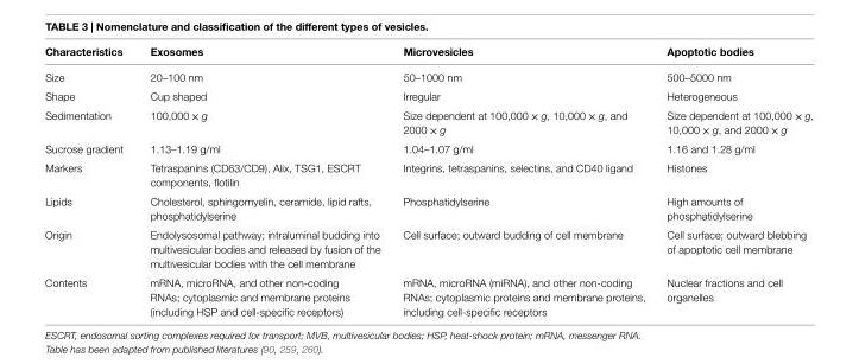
<table><thead><tr><td>Characteristics</td><td>exosomes</td><td>Microvesicles</td><td>Apoptotic bodies</td></tr></thead><tbody><tr><td>Size</td><td>20–100 nm</td><td>50–1000 nm</td><td>500–5000 nm</td></tr><tr><td>Shape</td><td>Cup shaped</td><td>Irregular</td><td>Heterogeneous</td></tr><tr><td>Sedimentation</td><td>100,000 × g</td><td>Size dependent at 100,000 × g, 10,000 × g, and 2000 × g</td><td>Size dependent at 100,000 × g, 10,000 × g, and 2000 × g</td></tr><tr><td>Sucrose gradient</td><td>1.13–1.19 g/ml</td><td>1.04–1.07 g/ml</td><td>1.16 and 1.28 g/ml</td></tr><tr><td>Markers</td><td>Tetraspanins (CD63/CD9), Alix, TSG1, ESCRT components, flotilin</td><td>Integrins, tetraspanins, selectins, and CD40 ligand</td><td>Histones</td></tr><tr><td>Lipids</td><td>Cholesterol, sphingomyelin, ceramide, lipid rafts, phosphatidylserine</td><td>Phosphatidylserine</td><td>High amounts of phosphatidylserine</td></tr><tr><td>Origin</td><td>Endolysosomal pathway; intraluminal budding into multivesicular bodies and released by fusion of the multivesicular bodies with the cell membrane</td><td>Cell surface; outward budding of cell membrane</td><td>Cell surface; outward blebbing of apoptotic cell membrane</td></tr><tr><td>Contents</td><td>mRNA, microRNA, and other non-coding RNAs; cytoplasmic and membrane proteins (including HSP and cell-specific receptors)</td><td>mRNA, microRNA (miRNA), and other non-coding RNAs; cytoplasmic proteins and membrane proteins, including cell-specific receptors</td><td>Nuclear fractions and cell organelles</td></tr></tbody></table>